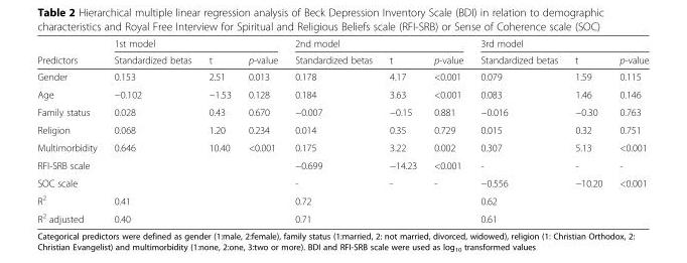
<table><thead><tr><td rowspan="2">Predictors</td><td colspan="3">1st model</td><td colspan="3">2nd model</td><td colspan="3">3rd model</td></tr><tr><td>Standardized betas</td><td>t</td><td>p-value</td><td>Standardized betas</td><td>t</td><td>p-value</td><td>Standardized betas</td><td>t</td><td>p-value</td></tr></thead><tbody><tr><td>Gender</td><td>0.153</td><td>2.51</td><td>0.013</td><td>0.178</td><td>4.17</td><td>&lt;0.001</td><td>0.079</td><td>1.59</td><td>0.115</td></tr><tr><td>Age</td><td>−0.102</td><td>−1.53</td><td>0.128</td><td>0.184</td><td>3.63</td><td>&lt;0.001</td><td>0.083</td><td>1.46</td><td>0.146</td></tr><tr><td>Family status</td><td>0.028</td><td>0.43</td><td>0.670</td><td>−0.007</td><td>−0.15</td><td>0.881</td><td>−0.016</td><td>−0.30</td><td>0.763</td></tr><tr><td>Religion</td><td>0.068</td><td>1.20</td><td>0.234</td><td>0.014</td><td>0.35</td><td>0.729</td><td>0.015</td><td>0.32</td><td>0.751</td></tr><tr><td>Multimorbidity</td><td>0.646</td><td>10.40</td><td>&lt;0.001</td><td>0.175</td><td>3.22</td><td>0.002</td><td>0.307</td><td>5.13</td><td>&lt;0.001</td></tr><tr><td>RFI-SRB scale</td><td></td><td></td><td></td><td>−0.699</td><td>−14.23</td><td>&lt;0.001</td><td>-</td><td>-</td><td>-</td></tr><tr><td>SOC scale</td><td></td><td></td><td></td><td>-</td><td>-</td><td>-</td><td>−0.556</td><td>−10.20</td><td>&lt;0.001</td></tr><tr><td>R<sup>2</sup></td><td colspan="3">0.41</td><td colspan="3">0.72</td><td colspan="3">0.62</td></tr><tr><td>R<sup>2</sup> adjusted</td><td colspan="3">0.40</td><td colspan="3">0.71</td><td colspan="3">0.61</td></tr></tbody></table>